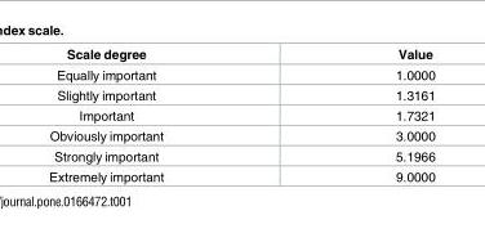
<table><thead><tr><td>Scale degree</td><td>Value</td></tr></thead><tbody><tr><td>Equally important</td><td>1.0000</td></tr><tr><td>Slightly important</td><td>1.3161</td></tr><tr><td>Important</td><td>1.7321</td></tr><tr><td>Obviously important</td><td>3.0000</td></tr><tr><td>Strongly important</td><td>5.1966</td></tr><tr><td>Extremely important</td><td>9.0000</td></tr></tbody></table>